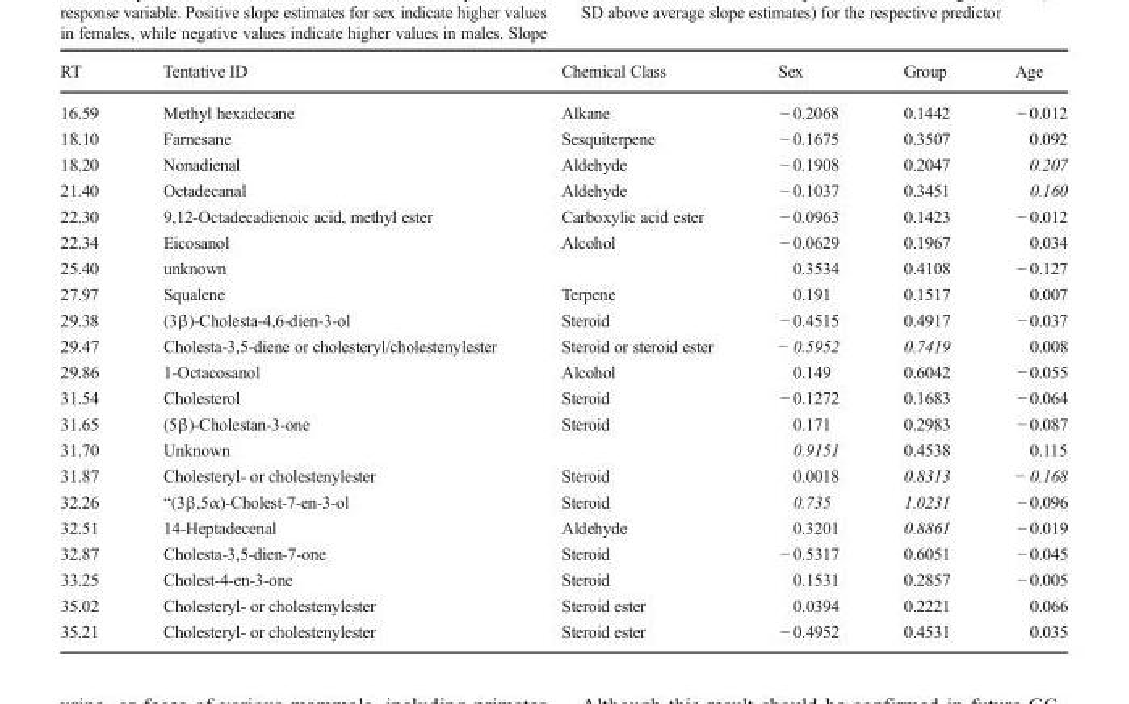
<table><thead><tr><td>RT</td><td>Tentative ID</td><td>Chemical Class</td><td>Sex</td><td>Group</td><td>Age</td></tr></thead><tbody><tr><td>16.59</td><td>Methyl hexadecane</td><td>Alkane</td><td>− 0.2068</td><td>0.1442</td><td>− 0.012</td></tr><tr><td>18.10</td><td>Farnesane</td><td>Sesquiterpene</td><td>− 0.1675</td><td>0.3507</td><td>0.092</td></tr><tr><td>18.20</td><td>Nonadienal</td><td>Aldehyde</td><td>− 0.1908</td><td>0.2047</td><td>0.207</td></tr><tr><td>21.40</td><td>Octadecanal</td><td>Aldehyde</td><td>− 0.1037</td><td>0.3451</td><td>0.160</td></tr><tr><td>22.30</td><td>9,12-Octadecadienoic acid, methyl ester</td><td>Carboxylic acid ester</td><td>− 0.0963</td><td>0.1423</td><td>− 0.012</td></tr><tr><td>22.34</td><td>Eicosanol</td><td>Alcohol</td><td>− 0.0629</td><td>0.1967</td><td>0.034</td></tr><tr><td>25.40</td><td>unknown</td><td></td><td>0.3534</td><td>0.4108</td><td>− 0.127</td></tr><tr><td>27.97</td><td>Squalene</td><td>Terpene</td><td>0.191</td><td>0.1517</td><td>0.007</td></tr><tr><td>29.38</td><td>(3β)-Cholesta-4,6-dien-3-ol</td><td>Steroid</td><td>− 0.4515</td><td>0.4917</td><td>− 0.037</td></tr><tr><td>29.47</td><td>Cholesta-3,5-diene or cholesteryl/cholestenylester</td><td>Steroid or steroid ester</td><td>− 0.5952</td><td>0.7419</td><td>0.008</td></tr><tr><td>29.86</td><td>1-Octacosanol</td><td>Alcohol</td><td>0.149</td><td>0.6042</td><td>− 0.055</td></tr><tr><td>31.54</td><td>Cholesterol</td><td>Steroid</td><td>− 0.1272</td><td>0.1683</td><td>− 0.064</td></tr><tr><td>31.65</td><td>(5β)-Cholestan-3-one</td><td>Steroid</td><td>0.171</td><td>0.2983</td><td>− 0.087</td></tr><tr><td>31.70</td><td>Unknown</td><td></td><td>0.9151</td><td>0.4538</td><td>0.115</td></tr><tr><td>31.87</td><td>Cholesteryl- or cholestenylester</td><td>Steroid</td><td>0.0018</td><td>0.8313</td><td>− 0.168</td></tr><tr><td>32.26</td><td>“(3β,5α)-Cholest-7-en-3-ol</td><td>Steroid</td><td>0.735</td><td>1.0231</td><td>− 0.096</td></tr><tr><td>32.51</td><td>14-Heptadecenal</td><td>Aldehyde</td><td>0.3201</td><td>0.8861</td><td>− 0.019</td></tr><tr><td>32.87</td><td>Cholesta-3,5-dien-7-one</td><td>Steroid</td><td>− 0.5317</td><td>0.6051</td><td>− 0.045</td></tr><tr><td>33.25</td><td>Cholest-4-en-3-one</td><td>Steroid</td><td>0.1531</td><td>0.2857</td><td>− 0.005</td></tr><tr><td>35.02</td><td>Cholesteryl- or cholestenylester</td><td>Steroid ester</td><td>0.0394</td><td>0.2221</td><td>0.066</td></tr><tr><td>35.21</td><td>Cholesteryl- or cholestenylester</td><td>Steroid ester</td><td>− 0.4952</td><td>0.4531</td><td>0.035</td></tr></tbody></table>